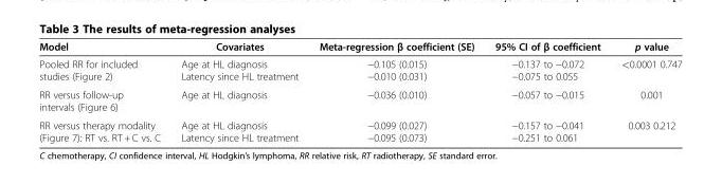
<table><thead><tr><td>Model</td><td>Covariates</td><td>Meta-regression β coefficient (SE)</td><td>95% CI of β coefficient</td><td>p value</td></tr></thead><tbody><tr><td>Pooled RR for included studies (Figure 2)</td><td>Age at HL diagnosis Latency since HL treatment</td><td>−0.105 (0.015) −0.010 (0.031)</td><td>−0.137 to −0.072 −0.075 to 0.055</td><td>&lt;0.0001 0.747</td></tr><tr><td>RR versus follow-up intervals (Figure 6)</td><td>Age at HL diagnosis</td><td>−0.036 (0.010)</td><td>−0.057 to −0.015</td><td>0.001</td></tr><tr><td>RR versus therapy modality (Figure 7): RT vs. RT + C vs. C</td><td>Age at HL diagnosis Latency since HL treatment</td><td>−0.099 (0.027) −0.095 (0.073)</td><td>−0.157 to −0.041 −0.251 to 0.061</td><td>0.003 0.212</td></tr></tbody></table>